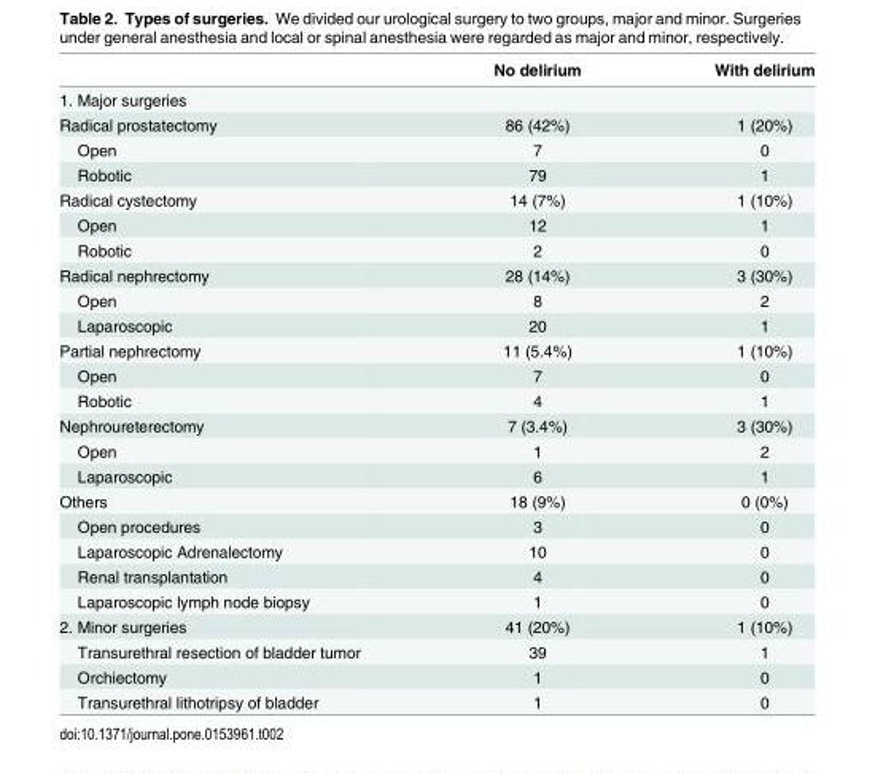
<table><thead><tr><td></td><td>No delirium</td><td>With delirium</td></tr></thead><tbody><tr><td colspan="3">1. Major surgeries</td></tr><tr><td>Radical prostatectomy</td><td>86 (42%)</td><td>1 (20%)</td></tr><tr><td>Open</td><td>7</td><td>0</td></tr><tr><td>Robotic</td><td>79</td><td>1</td></tr><tr><td>Radical cystectomy</td><td>14 (7%)</td><td>1 (10%)</td></tr><tr><td>Open</td><td>12</td><td>1</td></tr><tr><td>Robotic</td><td>2</td><td>0</td></tr><tr><td>Radical nephrectomy</td><td>28 (14%)</td><td>3 (30%)</td></tr><tr><td>Open</td><td>8</td><td>2</td></tr><tr><td>Laparoscopic</td><td>20</td><td>1</td></tr><tr><td>Partial nephrectomy</td><td>11 (5.4%)</td><td>1 (10%)</td></tr><tr><td>Open</td><td>7</td><td>0</td></tr><tr><td>Robotic</td><td>4</td><td>1</td></tr><tr><td>Nephroureterectomy</td><td>7 (3.4%)</td><td>3 (30%)</td></tr><tr><td>Open</td><td>1</td><td>2</td></tr><tr><td>Laparoscopic</td><td>6</td><td>1</td></tr><tr><td>Others</td><td>18 (9%)</td><td>0 (0%)</td></tr><tr><td>Open procedures</td><td>3</td><td>0</td></tr><tr><td>Laparoscopic Adrenalectomy</td><td>10</td><td>0</td></tr><tr><td>Renal transplantation</td><td>4</td><td>0</td></tr><tr><td>Laparoscopic lymph node biopsy</td><td>1</td><td>0</td></tr><tr><td>2. Minor surgeries</td><td>41 (20%)</td><td>1 (10%)</td></tr><tr><td>Transurethral resection of bladder tumor</td><td>39</td><td>1</td></tr><tr><td>Orchiectomy</td><td>1</td><td>0</td></tr><tr><td>Transurethral lithotripsy of bladder</td><td>1</td><td>0</td></tr></tbody></table>